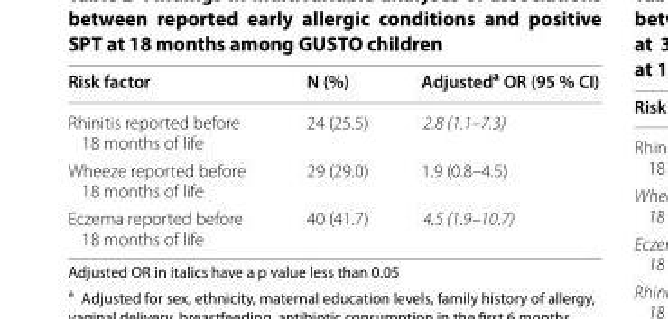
<table><thead><tr><td>Risk factor</td><td>N (%)</td><td>Adjusted<sup>a</sup> OR (95 % CI)</td></tr></thead><tbody><tr><td>Rhinitis reported before 18 months of life</td><td>24 (25.5)</td><td>2.8 (1.1–7.3)</td></tr><tr><td>Wheeze reported before 18 months of life</td><td>29 (29.0)</td><td>1.9 (0.8–4.5)</td></tr><tr><td>Eczema reported before 18 months of life</td><td>40 (41.7)</td><td>4.5 (1.9–10.7)</td></tr></tbody></table>